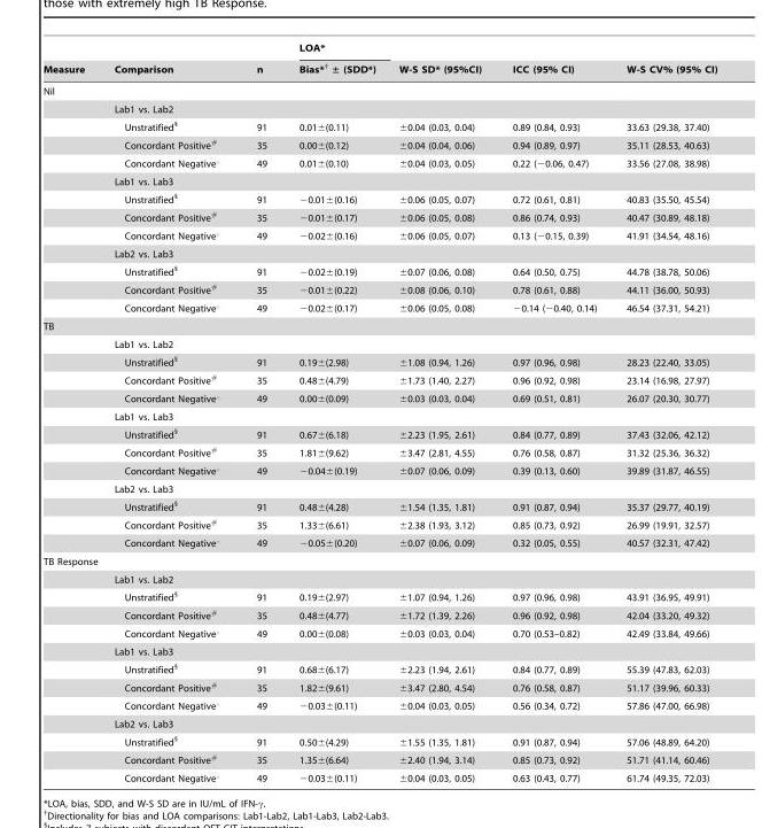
<table><thead><tr><td rowspan="2">Measure</td><td rowspan="2">Comparison</td><td rowspan="2">n</td><td rowspan="2">LOA* Bias*† ± (SDD*)</td><td rowspan="2">W-S SD* (95%CI)</td><td rowspan="2">ICC (95% CI)</td><td rowspan="2">W-S CV% (95% CI)</td></tr><tr></tr></thead><tbody><tr><td colspan="7">Nil</td></tr><tr><td></td><td>Lab1 vs. Lab2</td><td></td><td></td><td></td><td></td><td></td></tr><tr><td></td><td>Unstratified§</td><td>91</td><td>0.01±(0.11)</td><td>±0.04 (0.03, 0.04)</td><td>0.89 (0.84, 0.93)</td><td>33.63 (29.38, 37.40)</td></tr><tr><td></td><td>Concordant Positive#</td><td>35</td><td>0.00±(0.12)</td><td>±0.04 (0.04, 0.06)</td><td>0.94 (0.89, 0.97)</td><td>35.11 (28.53, 40.63)</td></tr><tr><td></td><td>Concordant Negative‘</td><td>49</td><td>0.01±(0.10)</td><td>±0.04 (0.03, 0.05)</td><td>0.22 (−0.06, 0.47)</td><td>33.56 (27.08, 38.98)</td></tr><tr><td></td><td>Lab1 vs. Lab3</td><td></td><td></td><td></td><td></td><td></td></tr><tr><td></td><td>Unstratified§</td><td>91</td><td>−0.01±(0.16)</td><td>±0.06 (0.05, 0.07)</td><td>0.72 (0.61, 0.81)</td><td>40.83 (35.50, 45.54)</td></tr><tr><td></td><td>Concordant Positive#</td><td>35</td><td>−0.01±(0.17)</td><td>±0.06 (0.05, 0.08)</td><td>0.86 (0.74, 0.93)</td><td>40.47 (30.89, 48.18)</td></tr><tr><td></td><td>Concordant Negative‘</td><td>49</td><td>−0.02±(0.16)</td><td>±0.06 (0.05, 0.07)</td><td>0.13 (−0.15, 0.39)</td><td>41.91 (34.54, 48.16)</td></tr><tr><td></td><td>Lab2 vs. Lab3</td><td></td><td></td><td></td><td></td><td></td></tr><tr><td></td><td>Unstratified§</td><td>91</td><td>−0.02±(0.19)</td><td>±0.07 (0.06, 0.08)</td><td>0.64 (0.50, 0.75)</td><td>44.78 (38.78, 50.06)</td></tr><tr><td></td><td>Concordant Positive#</td><td>35</td><td>−0.01±(0.22)</td><td>±0.08 (0.06, 0.10)</td><td>0.78 (0.61, 0.88)</td><td>44.11 (36.00, 50.93)</td></tr><tr><td></td><td>Concordant Negative‘</td><td>49</td><td>−0.02±(0.17)</td><td>±0.06 (0.05, 0.08)</td><td>−0.14 (−0.40, 0.14)</td><td>46.54 (37.31, 54.21)</td></tr><tr><td colspan="7">TB</td></tr><tr><td></td><td>Lab1 vs. Lab2</td><td></td><td></td><td></td><td></td><td></td></tr><tr><td></td><td>Unstratified§</td><td>91</td><td>0.19±(2.98)</td><td>±1.08 (0.94, 1.26)</td><td>0.97 (0.96, 0.98)</td><td>28.23 (22.40, 33.05)</td></tr><tr><td></td><td>Concordant Positive#</td><td>35</td><td>0.48±(4.79)</td><td>±1.73 (1.40, 2.27)</td><td>0.96 (0.92, 0.98)</td><td>23.14 (16.98, 27.97)</td></tr><tr><td></td><td>Concordant Negative‘</td><td>49</td><td>0.00±(0.09)</td><td>±0.03 (0.03, 0.04)</td><td>0.69 (0.51, 0.81)</td><td>26.07 (20.30, 30.77)</td></tr><tr><td></td><td>Lab1 vs. Lab3</td><td></td><td></td><td></td><td></td><td></td></tr><tr><td></td><td>Unstratified§</td><td>91</td><td>0.67±(6.18)</td><td>±2.23 (1.95, 2.61)</td><td>0.84 (0.77, 0.89)</td><td>37.43 (32.06, 42.12)</td></tr><tr><td></td><td>Concordant Positive#</td><td>35</td><td>1.81±(9.62)</td><td>±3.47 (2.81, 4.55)</td><td>0.76 (0.58, 0.87)</td><td>31.32 (25.36, 36.32)</td></tr><tr><td></td><td>Concordant Negative‘</td><td>49</td><td>−0.04±(0.19)</td><td>±0.07 (0.06, 0.09)</td><td>0.39 (0.13, 0.60)</td><td>39.89 (31.87, 46.55)</td></tr><tr><td></td><td>Lab2 vs. Lab3</td><td></td><td></td><td></td><td></td><td></td></tr><tr><td></td><td>Unstratified§</td><td>91</td><td>0.48±(4.28)</td><td>±1.54 (1.35, 1.81)</td><td>0.91 (0.87, 0.94)</td><td>35.37 (29.77, 40.19)</td></tr><tr><td></td><td>Concordant Positive#</td><td>35</td><td>1.33±(6.61)</td><td>±2.38 (1.93, 3.12)</td><td>0.85 (0.73, 0.92)</td><td>26.99 (19.91, 32.57)</td></tr><tr><td></td><td>Concordant Negative‘</td><td>49</td><td>−0.05±(0.20)</td><td>±0.07 (0.06, 0.09)</td><td>0.32 (0.05, 0.55)</td><td>40.57 (32.31, 47.42)</td></tr><tr><td colspan="7">TB Response</td></tr><tr><td></td><td>Lab1 vs. Lab2</td><td></td><td></td><td></td><td></td><td></td></tr><tr><td></td><td>Unstratified§</td><td>91</td><td>0.19±(2.97)</td><td>±1.07 (0.94, 1.26)</td><td>0.97 (0.96, 0.98)</td><td>43.91 (36.95, 49.91)</td></tr><tr><td></td><td>Concordant Positive#</td><td>35</td><td>0.48±(4.77)</td><td>±1.72 (1.39, 2.26)</td><td>0.96 (0.92, 0.98)</td><td>42.04 (33.20, 49.32)</td></tr><tr><td></td><td>Concordant Negative‘</td><td>49</td><td>0.00±(0.08)</td><td>±0.03 (0.03, 0.04)</td><td>0.70 (0.53–0.82)</td><td>42.49 (33.84, 49.66)</td></tr><tr><td></td><td>Lab1 vs. Lab3</td><td></td><td></td><td></td><td></td><td></td></tr><tr><td></td><td>Unstratified§</td><td>91</td><td>0.68±(6.17)</td><td>±2.23 (1.94, 2.61)</td><td>0.84 (0.77, 0.89)</td><td>55.39 (47.83, 62.03)</td></tr><tr><td></td><td>Concordant Positive#</td><td>35</td><td>1.82±(9.61)</td><td>±3.47 (2.80, 4.54)</td><td>0.76 (0.58, 0.87)</td><td>51.17 (39.96, 60.33)</td></tr><tr><td></td><td>Concordant Negative‘</td><td>49</td><td>−0.03±(0.11)</td><td>±0.04 (0.03, 0.05)</td><td>0.56 (0.34, 0.72)</td><td>57.86 (47.00, 66.98)</td></tr><tr><td></td><td>Lab2 vs. Lab3</td><td></td><td></td><td></td><td></td><td></td></tr><tr><td></td><td>Unstratified§</td><td>91</td><td>0.50±(4.29)</td><td>±1.55 (1.35, 1.81)</td><td>0.91 (0.87, 0.94)</td><td>57.06 (48.89, 64.20)</td></tr><tr><td></td><td>Concordant Positive#</td><td>35</td><td>1.35±(6.64)</td><td>±2.40 (1.94, 3.14)</td><td>0.85 (0.73, 0.92)</td><td>51.71 (41.14, 60.46)</td></tr><tr><td></td><td>Concordant Negative‘</td><td>49</td><td>−0.03±(0.11)</td><td>±0.04 (0.03, 0.05)</td><td>0.63 (0.43, 0.77)</td><td>61.74 (49.35, 72.03)</td></tr></tbody></table>